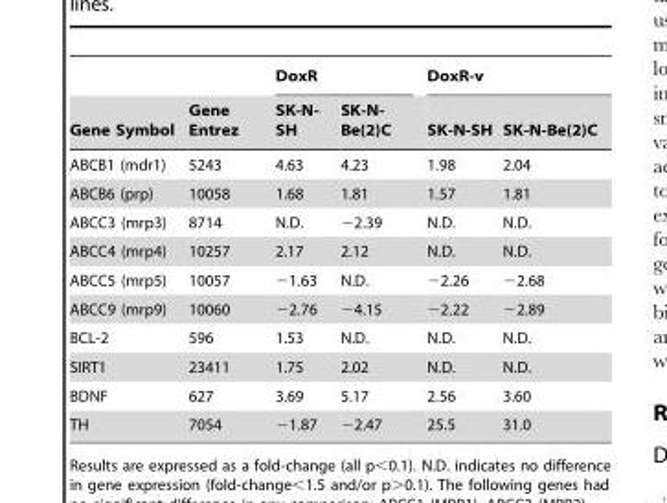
<table><thead><tr><td rowspan="2">Gene Symbol</td><td rowspan="2">Gene Entrez</td><td colspan="2">DoxR</td><td colspan="2">DoxR-v</td></tr><tr><td>SK-N- SH</td><td>SK-N- Be(2)C</td><td>SK-N-SH</td><td>SK-N-Be(2)C</td></tr></thead><tbody><tr><td>ABCB1 (mdr1)</td><td>5243</td><td>4.63</td><td>4.23</td><td>1.98</td><td>2.04</td></tr><tr><td>ABCB6 (prp)</td><td>10058</td><td>1.68</td><td>1.81</td><td>1.57</td><td>1.81</td></tr><tr><td>ABCC3 (mrp3)</td><td>8714</td><td>N.D.</td><td>−2.39</td><td>N.D.</td><td>N.D.</td></tr><tr><td>ABCC4 (mrp4)</td><td>10257</td><td>2.17</td><td>2.12</td><td>N.D.</td><td>N.D.</td></tr><tr><td>ABCC5 (mrp5)</td><td>10057</td><td>−1.63</td><td>N.D.</td><td>−2.26</td><td>−2.68</td></tr><tr><td>ABCC9 (mrp9)</td><td>10060</td><td>−2.76</td><td>−4.15</td><td>−2.22</td><td>−2.89</td></tr><tr><td>BCL-2</td><td>596</td><td>1.53</td><td>N.D.</td><td>N.D.</td><td>N.D.</td></tr><tr><td>SIRT1</td><td>23411</td><td>1.75</td><td>2.02</td><td>N.D.</td><td>N.D.</td></tr><tr><td>BDNF</td><td>627</td><td>3.69</td><td>5.17</td><td>2.56</td><td>3.60</td></tr><tr><td>TH</td><td>7054</td><td>−1.87</td><td>−2.47</td><td>25.5</td><td>31.0</td></tr></tbody></table>